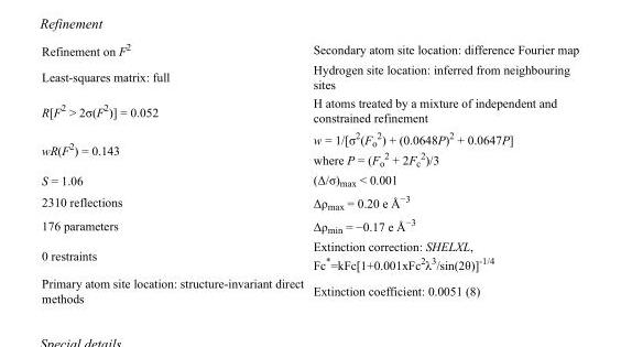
<table><tbody><tr><td>Refinement on F<sup>2</sup></td><td>Secondary atom site location: difference Fourier map</td></tr><tr><td>Least-squares matrix: full</td><td>Hydrogen site location: inferred from neighbouring sites</td></tr><tr><td>R[F<sup>2</sup> &gt; 2σ(F<sup>2</sup>)] = 0.052</td><td>H atoms treated by a mixture of independent and constrained refinement</td></tr><tr><td>wR(F<sup>2</sup>) = 0.143</td><td>w = 1/[σ<sup>2</sup>(F<sub>o</sub> <sup>2</sup>) + (0.0648P)<sup>2</sup> + 0.0647P] where P = (F<sub>o</sub> <sup>2</sup> + 2F<sub>c</sub> <sup>2</sup>)/3</td></tr><tr><td>S = 1.06</td><td>(Δ/σ)<sub>max</sub> &lt; 0.001</td></tr><tr><td>2310 reflections</td><td>Δρ<sub>max</sub> = 0.20 e Å<sup>−3</sup></td></tr><tr><td>176 parameters</td><td>Δρ<sub>min</sub> = −0.17 e Å<sup>−3</sup></td></tr><tr><td>0 restraints</td><td>Extinction correction: SHELXL, Fc*=kFc[1+0.001xFc<sup>2</sup>λ<sup>3</sup>/sin(2θ)]<sup>-1/4</sup></td></tr><tr><td>Primary atom site location: structure-invariant direct methods</td><td>Extinction coefficient: 0.0051 (8)</td></tr></tbody></table>